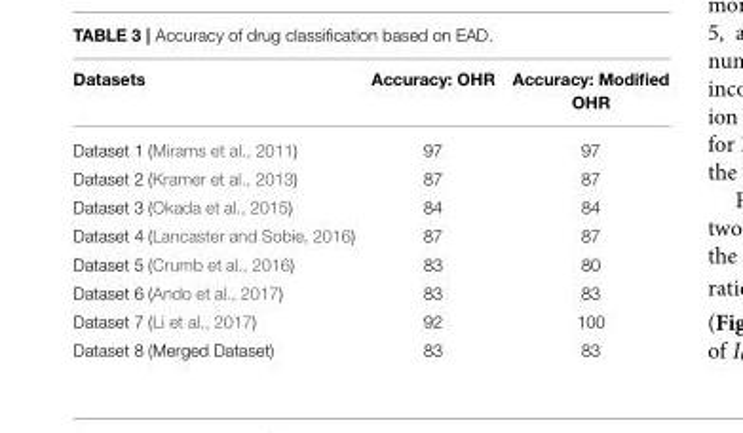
<table><thead><tr><td>Datasets</td><td>Accuracy: OHR</td><td>Accuracy: Modified OHR</td></tr></thead><tbody><tr><td>Dataset 1 (Mirams et al., 2011)</td><td>97</td><td>97</td></tr><tr><td>Dataset 2 (Kramer et al., 2013)</td><td>87</td><td>87</td></tr><tr><td>Dataset 3 (Okada et al., 2015)</td><td>84</td><td>84</td></tr><tr><td>Dataset 4 (Lancaster and Sobie, 2016)</td><td>87</td><td>87</td></tr><tr><td>Dataset 5 (Crumb et al., 2016)</td><td>83</td><td>80</td></tr><tr><td>Dataset 6 (Ando et al., 2017)</td><td>83</td><td>83</td></tr><tr><td>Dataset 7 (Li et al., 2017)</td><td>92</td><td>100</td></tr><tr><td>Dataset 8 (Merged Dataset)</td><td>83</td><td>83</td></tr></tbody></table>